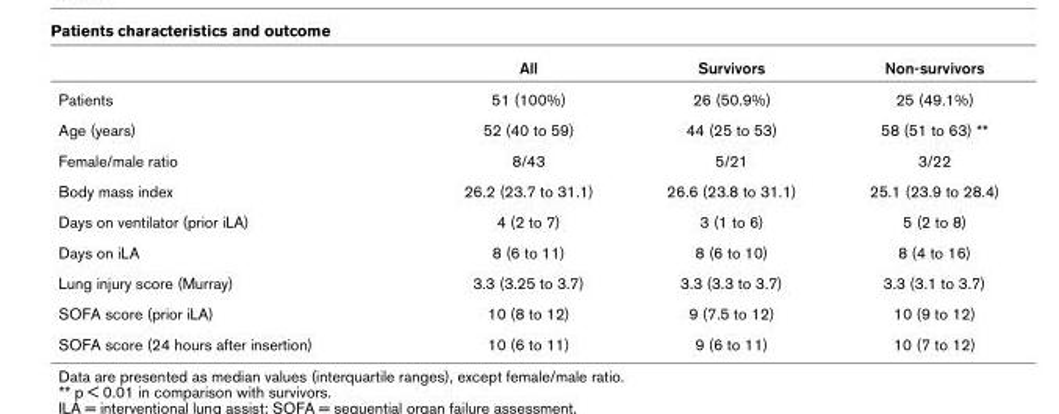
<table><thead><tr><td></td><td>All</td><td>Survivors</td><td>Non-survivors</td></tr></thead><tbody><tr><td>Patients</td><td>51 (100%)</td><td>26 (50.9%)</td><td>25 (49.1%)</td></tr><tr><td>Age (years)</td><td>52 (40 to 59)</td><td>44 (25 to 53)</td><td>58 (51 to 63) **</td></tr><tr><td>Female/male ratio</td><td>8/43</td><td>5/21</td><td>3/22</td></tr><tr><td>Body mass index</td><td>26.2 (23.7 to 31.1)</td><td>26.6 (23.8 to 31.1)</td><td>25.1 (23.9 to 28.4)</td></tr><tr><td>Days on ventilator (prior iLA)</td><td>4 (2 to 7)</td><td>3 (1 to 6)</td><td>5 (2 to 8)</td></tr><tr><td>Days on iLA</td><td>8 (6 to 11)</td><td>8 (6 to 10)</td><td>8 (4 to 16)</td></tr><tr><td>Lung injury score (Murray)</td><td>3.3 (3.25 to 3.7)</td><td>3.3 (3.3 to 3.7)</td><td>3.3 (3.1 to 3.7)</td></tr><tr><td>SOFA score (prior iLA)</td><td>10 (8 to 12)</td><td>9 (7.5 to 12)</td><td>10 (9 to 12)</td></tr><tr><td>SOFA score (24 hours after insertion)</td><td>10 (6 to 11)</td><td>9 (6 to 11)</td><td>10 (7 to 12)</td></tr></tbody></table>